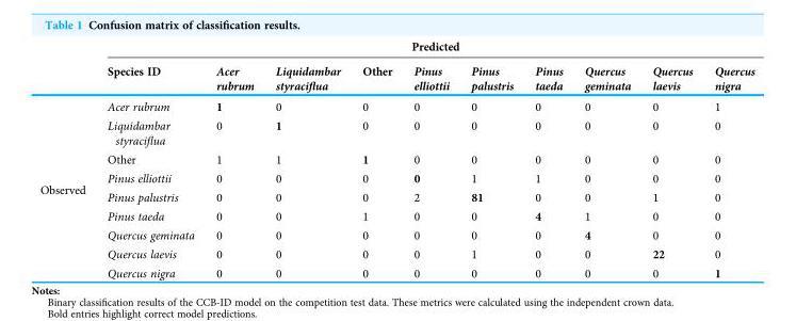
<table><thead><tr><td rowspan="2"></td><td colspan="10">Predicted</td></tr><tr><td>Species ID</td><td>Acer rubrum</td><td>Liquidambar styraciflua</td><td>Other</td><td>Pinus elliottii</td><td>Pinus palustris</td><td>Pinus taeda</td><td>Quercus geminata</td><td>Quercus laevis</td><td>Quercus nigra</td></tr></thead><tbody><tr><td rowspan="9">Observed</td><td>Acer rubrum</td><td>1</td><td>0</td><td>0</td><td>0</td><td>0</td><td>0</td><td>0</td><td>0</td><td>1</td></tr><tr><td>Liquidambar styraciflua</td><td>0</td><td>1</td><td>0</td><td>0</td><td>0</td><td>0</td><td>0</td><td>0</td><td>0</td></tr><tr><td>Other</td><td>1</td><td>1</td><td>1</td><td>0</td><td>0</td><td>0</td><td>0</td><td>0</td><td>0</td></tr><tr><td>Pinus elliottii</td><td>0</td><td>0</td><td>0</td><td>0</td><td>1</td><td>1</td><td>0</td><td>0</td><td>0</td></tr><tr><td>Pinus palustris</td><td>0</td><td>0</td><td>0</td><td>2</td><td>81</td><td>0</td><td>0</td><td>1</td><td>0</td></tr><tr><td>Pinus taeda</td><td>0</td><td>0</td><td>1</td><td>0</td><td>0</td><td>4</td><td>1</td><td>0</td><td>0</td></tr><tr><td>Quercus geminata</td><td>0</td><td>0</td><td>0</td><td>0</td><td>0</td><td>0</td><td>4</td><td>0</td><td>0</td></tr><tr><td>Quercus laevis</td><td>0</td><td>0</td><td>0</td><td>0</td><td>1</td><td>0</td><td>0</td><td>22</td><td>0</td></tr><tr><td>Quercus nigra</td><td>0</td><td>0</td><td>0</td><td>0</td><td>0</td><td>0</td><td>0</td><td>0</td><td>1</td></tr></tbody></table>